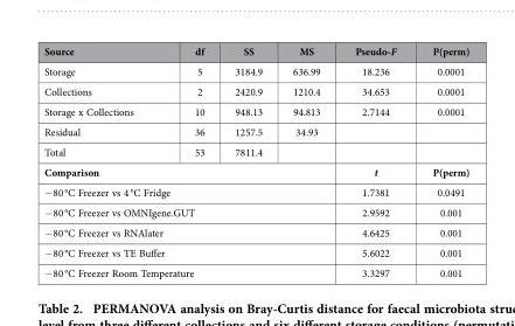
<table><thead><tr><td>Source</td><td>df</td><td>SS</td><td>MS</td><td>Pseudo-F</td><td>P(perm)</td></tr></thead><tbody><tr><td>Storage</td><td>5</td><td>3184.9</td><td>636.99</td><td>18.236</td><td>0.0001</td></tr><tr><td>Collections</td><td>2</td><td>2420.9</td><td>1210.4</td><td>34.653</td><td>0.0001</td></tr><tr><td>Storage x Collections</td><td>10</td><td>948.13</td><td>94.813</td><td>2.7144</td><td>0.0001</td></tr><tr><td>Residual</td><td>36</td><td>1257.5</td><td>34.93</td><td></td><td></td></tr><tr><td>Total</td><td>53</td><td>7811.4</td><td></td><td></td><td></td></tr><tr><td colspan="4">Comparison</td><td>t</td><td>P(perm)</td></tr><tr><td colspan="4">− 80 °C Freezer vs 4 °C Fridge</td><td>1.7381</td><td>0.0491</td></tr><tr><td colspan="4">− 80 °C Freezer vs OMNIgene.GUT</td><td>2.9592</td><td>0.001</td></tr><tr><td colspan="4">− 80 °C Freezer vs RNAlater</td><td>4.6425</td><td>0.001</td></tr><tr><td colspan="4">− 80 °C Freezer vs TE Buffer</td><td>5.6022</td><td>0.001</td></tr><tr><td colspan="4">− 80 °C Freezer Room Temperature</td><td>3.3297</td><td>0.001</td></tr></tbody></table>